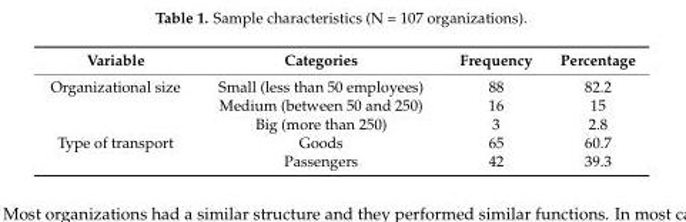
<table><thead><tr><td>Variable</td><td>Categories</td><td>Frequency</td><td>Percentage</td></tr></thead><tbody><tr><td rowspan="3">Organizational size</td><td>Small (less than 50 employees)</td><td>88</td><td>82.2</td></tr><tr><td>Medium (between 50 and 250)</td><td>16</td><td>15</td></tr><tr><td>Big (more than 250)</td><td>3</td><td>2.8</td></tr><tr><td rowspan="2">Type of transport</td><td>Goods</td><td>65</td><td>60.7</td></tr><tr><td>Passengers</td><td>42</td><td>39.3</td></tr></tbody></table>